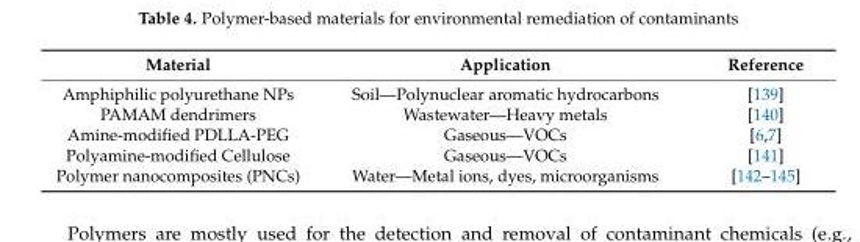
<table><thead><tr><td>Material</td><td>Application</td><td>Reference</td></tr></thead><tbody><tr><td>Amphiphilic polyurethane NPs</td><td>Soil—Polynuclear aromatic hydrocarbons</td><td>[139]</td></tr><tr><td>PAMAM dendrimers</td><td>Wastewater—Heavy metals</td><td>[140]</td></tr><tr><td>Amine-modified PDLLA-PEG</td><td>Gaseous—VOCs</td><td>[6,7]</td></tr><tr><td>Polyamine-modified Cellulose</td><td>Gaseous—VOCs</td><td>[141]</td></tr><tr><td>Polymer nanocomposites (PNCs)</td><td>Water—Metal ions, dyes, microorganisms</td><td>[142–145]</td></tr></tbody></table>